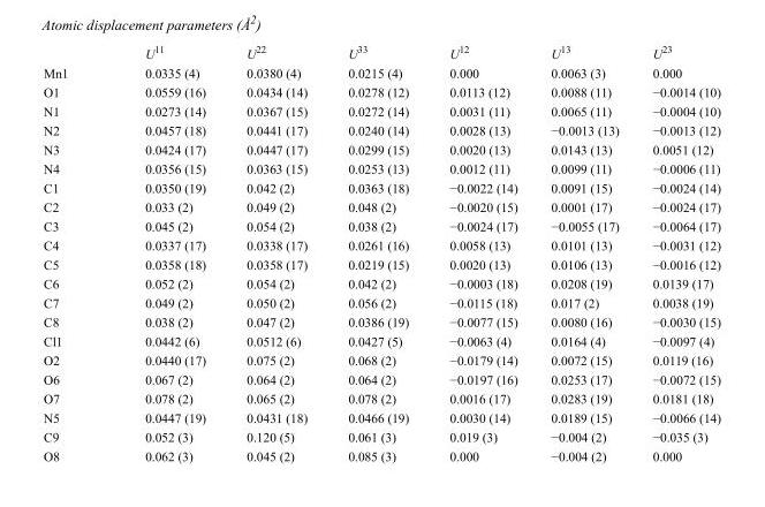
<table><thead><tr><td></td><td>U<sup>11</sup></td><td>U<sup>22</sup></td><td>U<sup>33</sup></td><td>U<sup>12</sup></td><td>U<sup>13</sup></td><td>U<sup>23</sup></td></tr></thead><tbody><tr><td>Mn1</td><td>0.0335 (4)</td><td>0.0380 (4)</td><td>0.0215 (4)</td><td>0.000</td><td>0.0063 (3)</td><td>0.000</td></tr><tr><td>O1</td><td>0.0559 (16)</td><td>0.0434 (14)</td><td>0.0278 (12)</td><td>0.0113 (12)</td><td>0.0088 (11)</td><td>−0.0014 (10)</td></tr><tr><td>N1</td><td>0.0273 (14)</td><td>0.0367 (15)</td><td>0.0272 (14)</td><td>0.0031 (11)</td><td>0.0065 (11)</td><td>−0.0004 (10)</td></tr><tr><td>N2</td><td>0.0457 (18)</td><td>0.0441 (17)</td><td>0.0240 (14)</td><td>0.0028 (13)</td><td>−0.0013 (13)</td><td>−0.0013 (12)</td></tr><tr><td>N3</td><td>0.0424 (17)</td><td>0.0447 (17)</td><td>0.0299 (15)</td><td>0.0020 (13)</td><td>0.0143 (13)</td><td>0.0051 (12)</td></tr><tr><td>N4</td><td>0.0356 (15)</td><td>0.0363 (15)</td><td>0.0253 (13)</td><td>0.0012 (11)</td><td>0.0099 (11)</td><td>−0.0006 (11)</td></tr><tr><td>C1</td><td>0.0350 (19)</td><td>0.042 (2)</td><td>0.0363 (18)</td><td>−0.0022 (14)</td><td>0.0091 (15)</td><td>−0.0024 (14)</td></tr><tr><td>C2</td><td>0.033 (2)</td><td>0.049 (2)</td><td>0.048 (2)</td><td>−0.0020 (15)</td><td>0.0001 (17)</td><td>−0.0024 (17)</td></tr><tr><td>C3</td><td>0.045 (2)</td><td>0.054 (2)</td><td>0.038 (2)</td><td>−0.0024 (17)</td><td>−0.0055 (17)</td><td>−0.0064 (17)</td></tr><tr><td>C4</td><td>0.0337 (17)</td><td>0.0338 (17)</td><td>0.0261 (16)</td><td>0.0058 (13)</td><td>0.0101 (13)</td><td>−0.0031 (12)</td></tr><tr><td>C5</td><td>0.0358 (18)</td><td>0.0358 (17)</td><td>0.0219 (15)</td><td>0.0020 (13)</td><td>0.0106 (13)</td><td>−0.0016 (12)</td></tr><tr><td>C6</td><td>0.052 (2)</td><td>0.054 (2)</td><td>0.042 (2)</td><td>−0.0003 (18)</td><td>0.0208 (19)</td><td>0.0139 (17)</td></tr><tr><td>C7</td><td>0.049 (2)</td><td>0.050 (2)</td><td>0.056 (2)</td><td>−0.0115 (18)</td><td>0.017 (2)</td><td>0.0038 (19)</td></tr><tr><td>C8</td><td>0.038 (2)</td><td>0.047 (2)</td><td>0.0386 (19)</td><td>−0.0077 (15)</td><td>0.0080 (16)</td><td>−0.0030 (15)</td></tr><tr><td>Cl1</td><td>0.0442 (6)</td><td>0.0512 (6)</td><td>0.0427 (5)</td><td>−0.0063 (4)</td><td>0.0164 (4)</td><td>−0.0097 (4)</td></tr><tr><td>O2</td><td>0.0440 (17)</td><td>0.075 (2)</td><td>0.068 (2)</td><td>−0.0179 (14)</td><td>0.0072 (15)</td><td>0.0119 (16)</td></tr><tr><td>O6</td><td>0.067 (2)</td><td>0.064 (2)</td><td>0.064 (2)</td><td>−0.0197 (16)</td><td>0.0253 (17)</td><td>−0.0072 (15)</td></tr><tr><td>O7</td><td>0.078 (2)</td><td>0.065 (2)</td><td>0.078 (2)</td><td>0.0016 (17)</td><td>0.0283 (19)</td><td>0.0181 (18)</td></tr><tr><td>N5</td><td>0.0447 (19)</td><td>0.0431 (18)</td><td>0.0466 (19)</td><td>0.0030 (14)</td><td>0.0189 (15)</td><td>−0.0066 (14)</td></tr><tr><td>C9</td><td>0.052 (3)</td><td>0.120 (5)</td><td>0.061 (3)</td><td>0.019 (3)</td><td>−0.004 (2)</td><td>−0.035 (3)</td></tr><tr><td>O8</td><td>0.062 (3)</td><td>0.045 (2)</td><td>0.085 (3)</td><td>0.000</td><td>−0.004 (2)</td><td>0.000</td></tr></tbody></table>